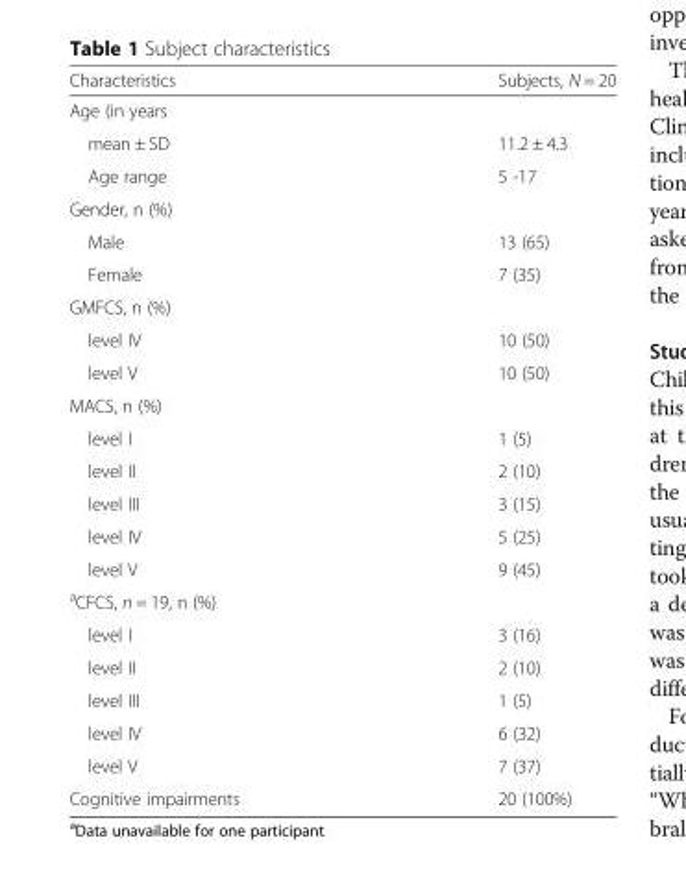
<table><thead><tr><td>Characteristics</td><td>Subjects, N = 20</td></tr></thead><tbody><tr><td colspan="2">Age (in years</td></tr><tr><td>mean ± SD</td><td>11.2 ± 4.3</td></tr><tr><td>Age range</td><td>5 -17</td></tr><tr><td colspan="2">Gender, n (%)</td></tr><tr><td>Male</td><td>13 (65)</td></tr><tr><td>Female</td><td>7 (35)</td></tr><tr><td colspan="2">GMFCS, n (%)</td></tr><tr><td>level IV</td><td>10 (50)</td></tr><tr><td>level V</td><td>10 (50)</td></tr><tr><td colspan="2">MACS, n (%)</td></tr><tr><td>level I</td><td>1 (5)</td></tr><tr><td>level II</td><td>2 (10)</td></tr><tr><td>level III</td><td>3 (15)</td></tr><tr><td>level IV</td><td>5 (25)</td></tr><tr><td>level V</td><td>9 (45)</td></tr><tr><td colspan="2"><sup>a</sup>CFCS, n = 19, n (%)</td></tr><tr><td>level I</td><td>3 (16)</td></tr><tr><td>level II</td><td>2 (10)</td></tr><tr><td>level III</td><td>1 (5)</td></tr><tr><td>level IV</td><td>6 (32)</td></tr><tr><td>level V</td><td>7 (37)</td></tr><tr><td>Cognitive impairments</td><td>20 (100%)</td></tr></tbody></table>